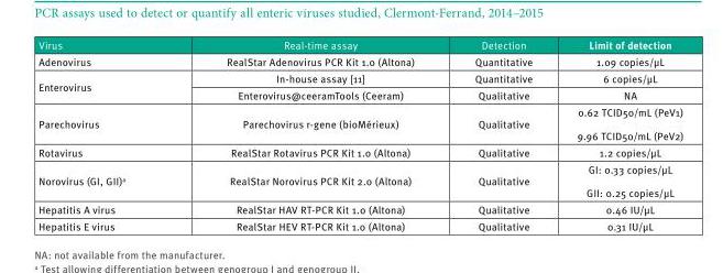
<table><thead><tr><td>Virus</td><td>Real-time assay</td><td>Detection</td><td>Limit of detection</td></tr></thead><tbody><tr><td>Adenovirus</td><td>RealStar Adenovirus PCR Kit 1.0 (Altona)</td><td>Quantitative</td><td>1.09 copies/μL</td></tr><tr><td rowspan="2">Enterovirus</td><td>In-house assay [11]</td><td>Quantitative</td><td>6 copies/µL</td></tr><tr><td>Enterovirus@ceeramTools (Ceeram)</td><td>Qualitative</td><td>NA</td></tr><tr><td>Parechovirus</td><td>Parechovirus r-gene (bioMérieux)</td><td>Qualitative</td><td>0.62 TCID50/mL (PeV1) 9.96 TCID50/mL (PeV2)</td></tr><tr><td>Rotavirus</td><td>RealStar Rotavirus PCR Kit 1.0 (Altona)</td><td>Qualitative</td><td>1.2 copies/μL</td></tr><tr><td>Norovirus (GI, GII)<sup>a</sup></td><td>RealStar Norovirus PCR Kit 2.0 (Altona)</td><td>Qualitative</td><td>GI: 0.33 copies/μL GII: 0.25 copies/μL</td></tr><tr><td>Hepatitis A virus</td><td>RealStar HAV RT-PCR Kit 1.0 (Altona)</td><td>Qualitative</td><td>0.46 IU/μL</td></tr><tr><td>Hepatitis E virus</td><td>RealStar HEV RT-PCR Kit 1.0 (Altona)</td><td>Qualitative</td><td>0.31 IU/μL</td></tr></tbody></table>